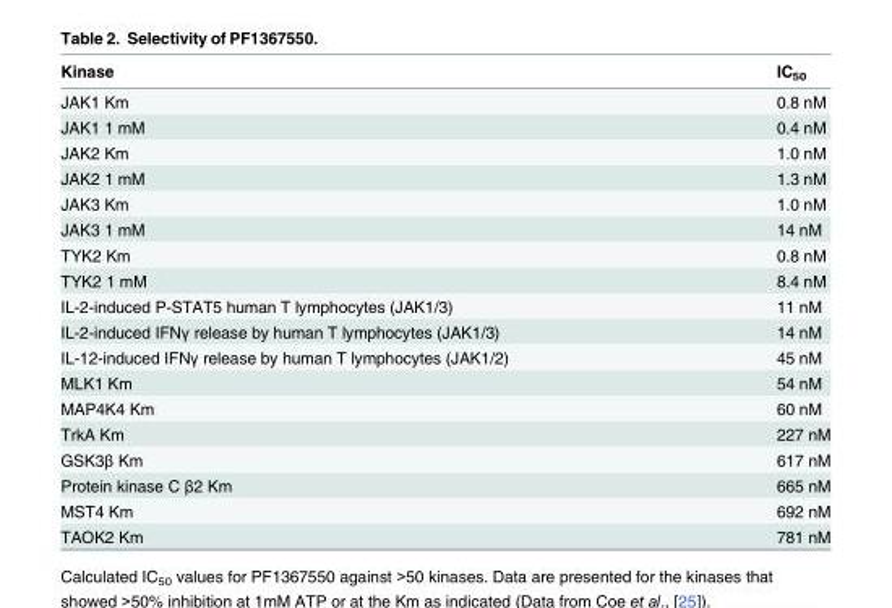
<table><thead><tr><td>Kinase</td><td>IC<sub>50</sub></td></tr></thead><tbody><tr><td>JAK1 Km</td><td>0.8 nM</td></tr><tr><td>JAK1 1 mM</td><td>0.4 nM</td></tr><tr><td>JAK2 Km</td><td>1.0 nM</td></tr><tr><td>JAK2 1 mM</td><td>1.3 nM</td></tr><tr><td>JAK3 Km</td><td>1.0 nM</td></tr><tr><td>JAK3 1 mM</td><td>14 nM</td></tr><tr><td>TYK2 Km</td><td>0.8 nM</td></tr><tr><td>TYK2 1 mM</td><td>8.4 nM</td></tr><tr><td>IL-2-induced P-STAT5 human T lymphocytes (JAK1/3)</td><td>11 nM</td></tr><tr><td>IL-2-induced IFNγ release by human T lymphocytes (JAK1/3)</td><td>14 nM</td></tr><tr><td>IL-12-induced IFNγ release by human T lymphocytes (JAK1/2)</td><td>45 nM</td></tr><tr><td>MLK1 Km</td><td>54 nM</td></tr><tr><td>MAP4K4 Km</td><td>60 nM</td></tr><tr><td>TrkA Km</td><td>227 nM</td></tr><tr><td>GSK3β Km</td><td>617 nM</td></tr><tr><td>Protein kinase C β2 Km</td><td>665 nM</td></tr><tr><td>MST4 Km</td><td>692 nM</td></tr><tr><td>TAOK2 Km</td><td>781 nM</td></tr></tbody></table>